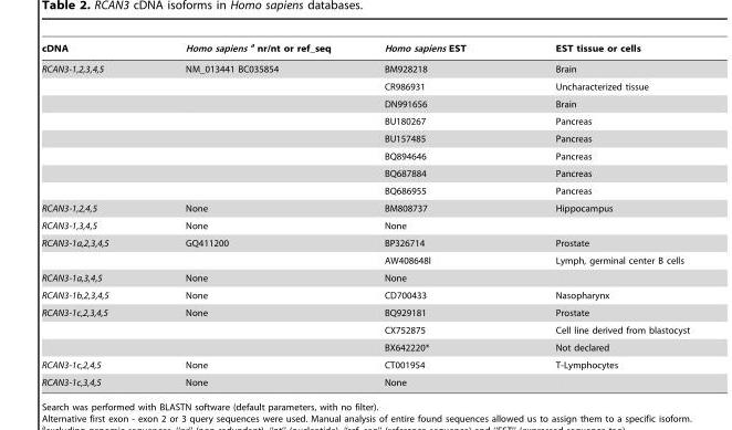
<table><thead><tr><td>cDNA</td><td>Homo sapiens a nr/nt or ref_seq</td><td>Homo sapiens EST</td><td>EST tissue or cells</td></tr></thead><tbody><tr><td rowspan="8">RCAN3-1,2,3,4,5</td><td>NM_013441 BC035854</td><td>BM928218</td><td>Brain</td></tr><tr><td></td><td>CR986931</td><td>Uncharacterized tissue</td></tr><tr><td></td><td>DN991656</td><td>Brain</td></tr><tr><td></td><td>BU180267</td><td>Pancreas</td></tr><tr><td></td><td>BU157485</td><td>Pancreas</td></tr><tr><td></td><td>BQ894646</td><td>Pancreas</td></tr><tr><td></td><td>BQ687884</td><td>Pancreas</td></tr><tr><td></td><td>BQ686955</td><td>Pancreas</td></tr><tr><td>RCAN3-1,2,4,5</td><td>None</td><td>BM808737</td><td>Hippocampus</td></tr><tr><td>RCAN3-1,3,4,5</td><td>None</td><td>None</td><td></td></tr><tr><td rowspan="2">RCAN3-1a,2,3,4,5</td><td>GQ411200</td><td>BP326714</td><td>Prostate</td></tr><tr><td></td><td>AW408648l</td><td>Lymph, germinal center B cells</td></tr><tr><td>RCAN3-1a,3,4,5</td><td>None</td><td>None</td><td></td></tr><tr><td>RCAN3-1b,2,3,4,5</td><td>None</td><td>CD700433</td><td>Nasopharynx</td></tr><tr><td rowspan="3">RCAN3-1c,2,3,4,5</td><td>None</td><td>BQ929181</td><td>Prostate</td></tr><tr><td></td><td>CX752875</td><td>Cell line derived from blastocyst</td></tr><tr><td></td><td>BX642220*</td><td>Not declared</td></tr><tr><td>RCAN3-1c,2,4,5</td><td>None</td><td>CT001954</td><td>T-Lymphocytes</td></tr><tr><td>RCAN3-1c,3,4,5</td><td>None</td><td>None</td><td></td></tr></tbody></table>